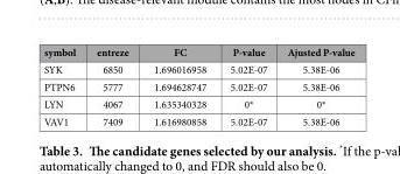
<table><thead><tr><td>symbol</td><td>entreze</td><td>FC</td><td>P-value</td><td>Ajusted P-value</td></tr></thead><tbody><tr><td>SYK</td><td>6850</td><td>1.696016958</td><td>5.02E-07</td><td>5.38E-06</td></tr><tr><td>PTPN6</td><td>5777</td><td>1.694628747</td><td>5.02E-07</td><td>5.38E-06</td></tr><tr><td>LYN</td><td>4067</td><td>1.635340328</td><td>0*</td><td>0*</td></tr><tr><td>VAV1</td><td>7409</td><td>1.616980858</td><td>5.02E-07</td><td>5.38E-06</td></tr></tbody></table>